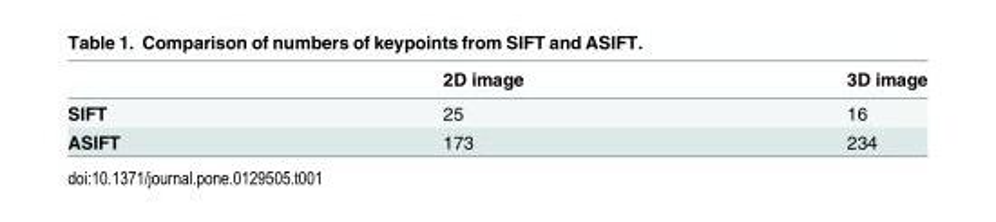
<table><thead><tr><td></td><td>2D image</td><td>3D image</td></tr></thead><tbody><tr><td>SIFT</td><td>25</td><td>16</td></tr><tr><td>ASIFT</td><td>173</td><td>234</td></tr></tbody></table>